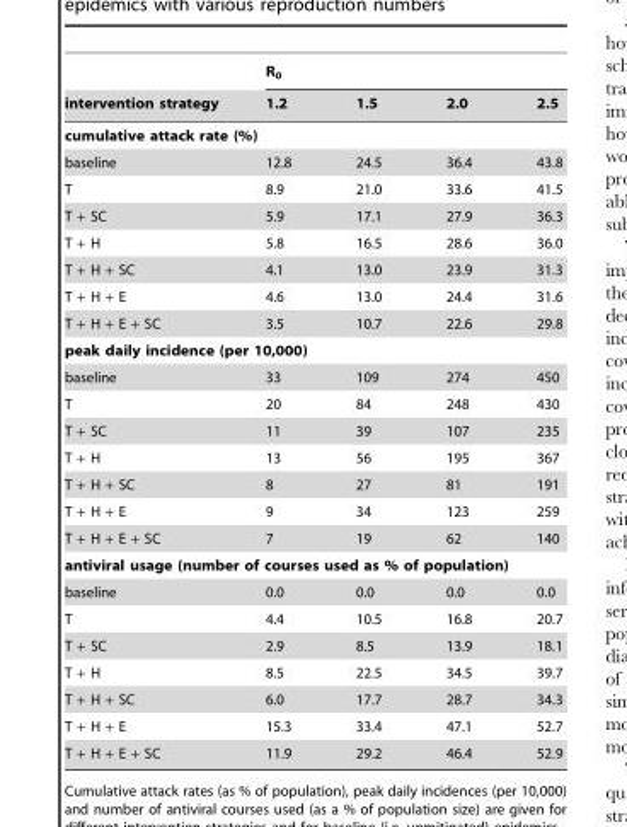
<table><thead><tr><td rowspan="2">intervention strategy</td><td colspan="4">R<sub>0</sub></td></tr><tr><td>1.2</td><td>1.5</td><td>2.0</td><td>2.5</td></tr></thead><tbody><tr><td colspan="5">cumulative attack rate (%)</td></tr><tr><td>baseline</td><td>12.8</td><td>24.5</td><td>36.4</td><td>43.8</td></tr><tr><td>T</td><td>8.9</td><td>21.0</td><td>33.6</td><td>41.5</td></tr><tr><td>T + SC</td><td>5.9</td><td>17.1</td><td>27.9</td><td>36.3</td></tr><tr><td>T + H</td><td>5.8</td><td>16.5</td><td>28.6</td><td>36.0</td></tr><tr><td>T + H + SC</td><td>4.1</td><td>13.0</td><td>23.9</td><td>31.3</td></tr><tr><td>T + H + E</td><td>4.6</td><td>13.0</td><td>24.4</td><td>31.6</td></tr><tr><td>T + H + E + SC</td><td>3.5</td><td>10.7</td><td>22.6</td><td>29.8</td></tr><tr><td colspan="5">peak daily incidence (per 10,000)</td></tr><tr><td>baseline</td><td>33</td><td>109</td><td>274</td><td>450</td></tr><tr><td>T</td><td>20</td><td>84</td><td>248</td><td>430</td></tr><tr><td>T + SC</td><td>11</td><td>39</td><td>107</td><td>235</td></tr><tr><td>T + H</td><td>13</td><td>56</td><td>195</td><td>367</td></tr><tr><td>T + H + SC</td><td>8</td><td>27</td><td>81</td><td>191</td></tr><tr><td>T + H + E</td><td>9</td><td>34</td><td>123</td><td>259</td></tr><tr><td>T + H + E + SC</td><td>7</td><td>19</td><td>62</td><td>140</td></tr><tr><td colspan="5">antiviral usage (number of courses used as % of population)</td></tr><tr><td>baseline</td><td>0.0</td><td>0.0</td><td>0.0</td><td>0.0</td></tr><tr><td>T</td><td>4.4</td><td>10.5</td><td>16.8</td><td>20.7</td></tr><tr><td>T + SC</td><td>2.9</td><td>8.5</td><td>13.9</td><td>18.1</td></tr><tr><td>T + H</td><td>8.5</td><td>22.5</td><td>34.5</td><td>39.7</td></tr><tr><td>T + H + SC</td><td>6.0</td><td>17.7</td><td>28.7</td><td>34.3</td></tr><tr><td>T + H + E</td><td>15.3</td><td>33.4</td><td>47.1</td><td>52.7</td></tr><tr><td>T + H + E + SC</td><td>11.9</td><td>29.2</td><td>46.4</td><td>52.9</td></tr></tbody></table>